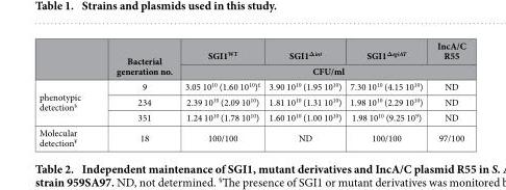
<table><thead><tr><td rowspan="2"></td><td rowspan="2">Bacterial generation no.</td><td>SGI1<sup>WT</sup></td><td>SGI1<sup>Δint</sup></td><td>SGI1<sup>ΔsgiAT</sup></td><td>IncA/C R55</td></tr><tr><td colspan="4">CFU/ml</td></tr></thead><tbody><tr><td rowspan="3">phenotypic detection§</td><td>9</td><td>3.05 10<sup>10</sup> (1.60 10<sup>10</sup>)£</td><td>3.90 10<sup>10</sup> (1.95 10<sup>10</sup>)</td><td>7.30 10<sup>10</sup> (4.15 10<sup>10</sup>)</td><td>ND</td></tr><tr><td>234</td><td>2.39 10<sup>10</sup> (2.09 10<sup>10</sup>)</td><td>1.81 10<sup>10</sup> (1.31 10<sup>10</sup>)</td><td>1.98 10<sup>10</sup> (2.29 10<sup>10</sup>)</td><td>ND</td></tr><tr><td>351</td><td>1.24 10<sup>10</sup> (1.78 10<sup>10</sup>)</td><td>1.60 10<sup>10</sup> (1.00 10<sup>10</sup>)</td><td>1.98 10<sup>10</sup> (9.25 10<sup>9</sup>)</td><td>ND</td></tr><tr><td>Molecular detection¥</td><td>18</td><td>100/100</td><td>ND</td><td>100/100</td><td>97/100</td></tr></tbody></table>